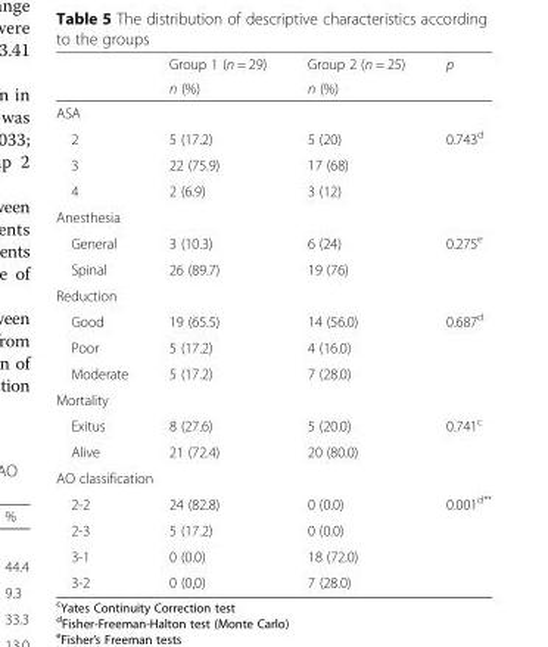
<table><thead><tr><td rowspan="2"></td><td rowspan="2">Group 1 (n = 29) n (%)</td><td rowspan="2">Group 2 (n = 25) n (%)</td><td rowspan="2">p</td></tr><tr></tr></thead><tbody><tr><td colspan="4">ASA</td></tr><tr><td>2</td><td>5 (17.2)</td><td>5 (20)</td><td rowspan="3">0.743<sup>d</sup></td></tr><tr><td>3</td><td>22 (75.9)</td><td>17 (68)</td></tr><tr><td>4</td><td>2 (6.9)</td><td>3 (12)</td></tr><tr><td colspan="4">Anesthesia</td></tr><tr><td>General</td><td>3 (10.3)</td><td>6 (24)</td><td rowspan="2">0.275<sup>e</sup></td></tr><tr><td>Spinal</td><td>26 (89.7)</td><td>19 (76)</td></tr><tr><td colspan="4">Reduction</td></tr><tr><td>Good</td><td>19 (65.5)</td><td>14 (56.0)</td><td rowspan="3">0.687<sup>d</sup></td></tr><tr><td>Poor</td><td>5 (17.2)</td><td>4 (16.0)</td></tr><tr><td>Moderate</td><td>5 (17.2)</td><td>7 (28.0)</td></tr><tr><td colspan="4">Mortality</td></tr><tr><td>Exitus</td><td>8 (27.6)</td><td>5 (20.0)</td><td rowspan="2">0.741<sup>c</sup></td></tr><tr><td>Alive</td><td>21 (72.4)</td><td>20 (80.0)</td></tr><tr><td colspan="4">AO classification</td></tr><tr><td>2-2</td><td>24 (82.8)</td><td>0 (0.0)</td><td rowspan="4">0.001<sup>d**</sup></td></tr><tr><td>2-3</td><td>5 (17.2)</td><td>0 (0.0)</td></tr><tr><td>3-1</td><td>0 (0.0)</td><td>18 (72.0)</td></tr><tr><td>3-2</td><td>0 (0,0)</td><td>7 (28.0)</td></tr></tbody></table>